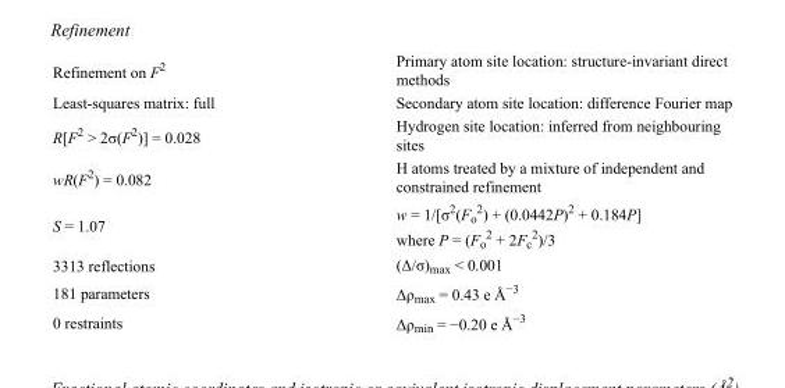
<table><tbody><tr><td>Refinement on F<sup>2</sup></td><td>Primary atom site location: structure-invariant direct methods</td></tr><tr><td>Least-squares matrix: full</td><td>Secondary atom site location: difference Fourier map</td></tr><tr><td>R[F<sup>2</sup> &gt; 2σ(F<sup>2</sup>)] = 0.028</td><td>Hydrogen site location: inferred from neighbouring sites</td></tr><tr><td>wR(F<sup>2</sup>) = 0.082</td><td>H atoms treated by a mixture of independent and constrained refinement</td></tr><tr><td>S = 1.07</td><td>w = 1/[σ<sup>2</sup>(F<sub>o</sub> <sup>2</sup>) + (0.0442P)<sup>2</sup> + 0.184P] where P = (F<sub>o</sub> <sup>2</sup> + 2F<sub>c</sub> <sup>2</sup>)/3</td></tr><tr><td>3313 reflections</td><td>(Δ/σ)<sub>max</sub> &lt; 0.001</td></tr><tr><td>181 parameters</td><td>Δρ<sub>max</sub> = 0.43 e Å<sup>−3</sup></td></tr><tr><td>0 restraints</td><td>Δρ<sub>min</sub> = −0.20 e Å<sup>−3</sup></td></tr></tbody></table>